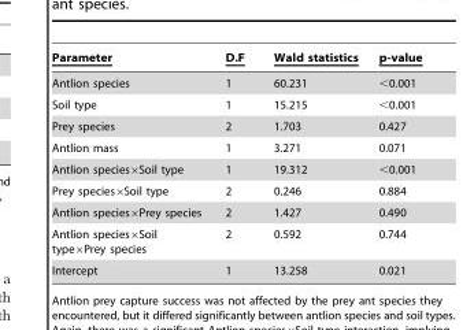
<table><thead><tr><td>Parameter</td><td>D.F</td><td>Wald statistics</td><td>p-value</td></tr></thead><tbody><tr><td>Antlion species</td><td>1</td><td>60.231</td><td>&lt;0.001</td></tr><tr><td>Soil type</td><td>1</td><td>15.215</td><td>&lt;0.001</td></tr><tr><td>Prey species</td><td>2</td><td>1.703</td><td>0.427</td></tr><tr><td>Antlion mass</td><td>1</td><td>3.271</td><td>0.071</td></tr><tr><td>Antlion species×Soil type</td><td>1</td><td>19.312</td><td>&lt;0.001</td></tr><tr><td>Prey species×Soil type</td><td>2</td><td>0.246</td><td>0.884</td></tr><tr><td>Antlion species×Prey species</td><td>2</td><td>1.427</td><td>0.490</td></tr><tr><td>Antlion species×Soil type×Prey species</td><td>2</td><td>0.592</td><td>0.744</td></tr><tr><td>Intercept</td><td>1</td><td>13.258</td><td>0.021</td></tr></tbody></table>